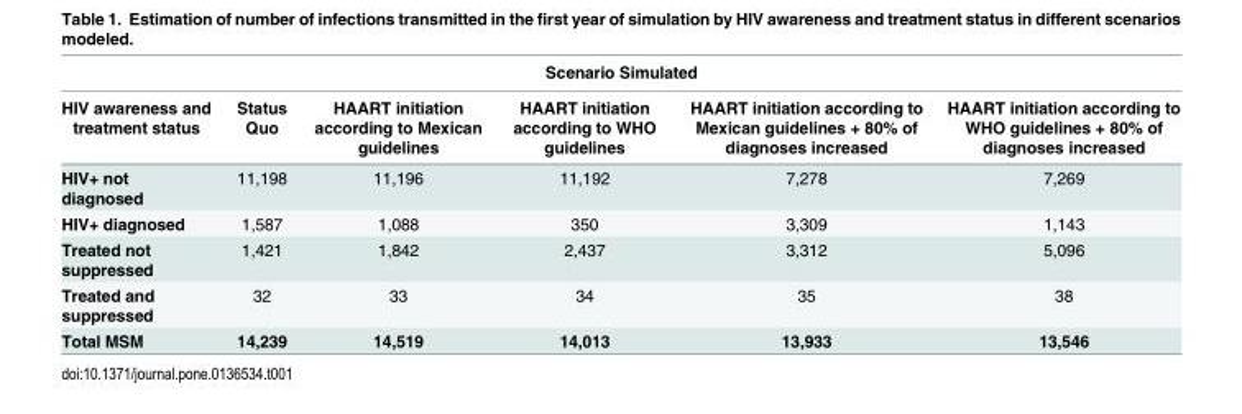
<table><thead><tr><td colspan="6">Scenario Simulated</td></tr><tr><td>HIV awareness and treatment status</td><td>Status Quo</td><td>HAART initiation according to Mexican guidelines</td><td>HAART initiation according to WHO guidelines</td><td>HAART initiation according to Mexican guidelines + 80% of diagnoses increased</td><td>HAART initiation according to WHO guidelines + 80% of diagnoses increased</td></tr></thead><tbody><tr><td>HIV+ not diagnosed</td><td>11,198</td><td>11,196</td><td>11,192</td><td>7,278</td><td>7,269</td></tr><tr><td>HIV+ diagnosed</td><td>1,587</td><td>1,088</td><td>350</td><td>3,309</td><td>1,143</td></tr><tr><td>Treated not suppressed</td><td>1,421</td><td>1,842</td><td>2,437</td><td>3,312</td><td>5,096</td></tr><tr><td>Treated and suppressed</td><td>32</td><td>33</td><td>34</td><td>35</td><td>38</td></tr><tr><td>Total MSM</td><td>14,239</td><td>14,519</td><td>14,013</td><td>13,933</td><td>13,546</td></tr></tbody></table>